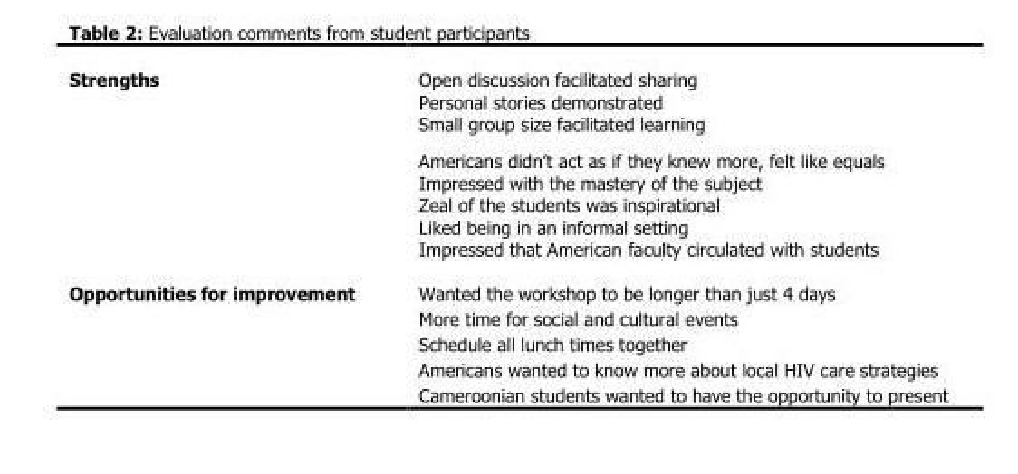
<table><tbody><tr><td>Strengths</td><td>Open discussion facilitated sharing Personal stories demonstrated Small group size facilitated learning Americans didn’t act as if they knew more, felt like equals Impressed with the mastery of the subject Zeal of the students was inspirational Liked being in an informal setting Impressed that American faculty circulated with students</td></tr><tr><td>Opportunities for improvement</td><td>Wanted the workshop to be longer than just 4 days More time for social and cultural events Schedule all lunch times together Americans wanted to know more about local HIV care strategies Cameroonian students wanted to have the opportunity to present</td></tr></tbody></table>